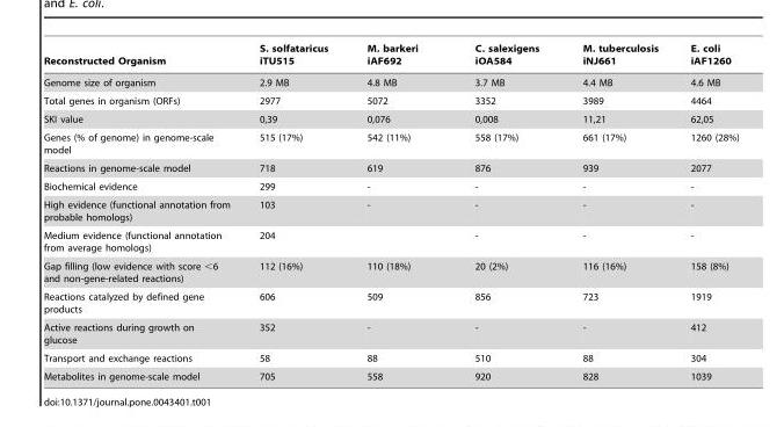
<table><thead><tr><td>Reconstructed Organism</td><td>S. solfataricus iTU515</td><td>M. barkeri iAF692</td><td>C. salexigens iOA584</td><td>M. tuberculosis iNJ661</td><td>E. coli iAF1260</td></tr></thead><tbody><tr><td>Genome size of organism</td><td>2.9 MB</td><td>4.8 MB</td><td>3.7 MB</td><td>4.4 MB</td><td>4.6 MB</td></tr><tr><td>Total genes in organism (ORFs)</td><td>2977</td><td>5072</td><td>3352</td><td>3989</td><td>4464</td></tr><tr><td>SKI value</td><td>0,39</td><td>0,076</td><td>0,008</td><td>11,21</td><td>62,05</td></tr><tr><td>Genes (% of genome) in genome-scale model</td><td>515 (17%)</td><td>542 (11%)</td><td>558 (17%)</td><td>661 (17%)</td><td>1260 (28%)</td></tr><tr><td>Reactions in genome-scale model</td><td>718</td><td>619</td><td>876</td><td>939</td><td>2077</td></tr><tr><td>Biochemical evidence</td><td>299</td><td>-</td><td>-</td><td>-</td><td>-</td></tr><tr><td>High evidence (functional annotation from probable homologs)</td><td>103</td><td>-</td><td>-</td><td>-</td><td>-</td></tr><tr><td>Medium evidence (functional annotation from average homologs)</td><td>204</td><td></td><td>-</td><td>-</td><td>-</td></tr><tr><td>Gap filling (low evidence with score &lt;6 and non-gene-related reactions)</td><td>112 (16%)</td><td>110 (18%)</td><td>20 (2%)</td><td>116 (16%)</td><td>158 (8%)</td></tr><tr><td>Reactions catalyzed by defined gene products</td><td>606</td><td>509</td><td>856</td><td>723</td><td>1919</td></tr><tr><td>Active reactions during growth on glucose</td><td>352</td><td>-</td><td>-</td><td>-</td><td>412</td></tr><tr><td>Transport and exchange reactions</td><td>58</td><td>88</td><td>510</td><td>88</td><td>304</td></tr><tr><td>Metabolites in genome-scale model</td><td>705</td><td>558</td><td>920</td><td>828</td><td>1039</td></tr></tbody></table>